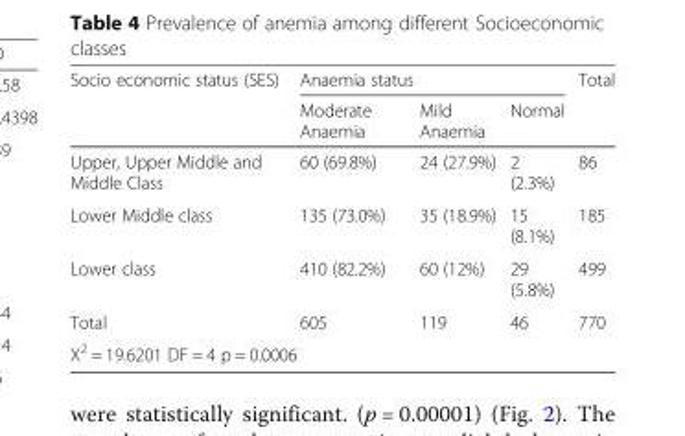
<table><thead><tr><td rowspan="2">Socio economic status (SES)</td><td colspan="3">Anaemia status</td><td rowspan="2">Total</td></tr><tr><td>Moderate Anaemia</td><td>Mild Anaemia</td><td>Normal</td></tr></thead><tbody><tr><td>Upper, Upper Middle and Middle Class</td><td>60 (69.8%)</td><td>24 (27.9%)</td><td>2 (2.3%)</td><td>86</td></tr><tr><td>Lower Middle class</td><td>135 (73.0%)</td><td>35 (18.9%)</td><td>15 (8.1%)</td><td>185</td></tr><tr><td>Lower class</td><td>410 (82.2%)</td><td>60 (12%)</td><td>29 (5.8%)</td><td>499</td></tr><tr><td>Total</td><td>605</td><td>119</td><td>46</td><td>770</td></tr><tr><td colspan="5">X<sup>2</sup> = 19.6201 DF = 4 p = 0.0006</td></tr></tbody></table>